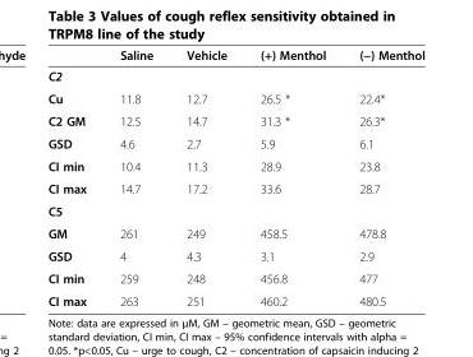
<table><thead><tr><td></td><td>Saline</td><td>Vehicle</td><td>(+) Menthol</td><td>(−) Menthol</td></tr></thead><tbody><tr><td colspan="5">C2</td></tr><tr><td>Cu</td><td>11.8</td><td>12.7</td><td>26.5 *</td><td>22.4*</td></tr><tr><td>C2 GM</td><td>12.5</td><td>14.7</td><td>31.3 *</td><td>26.3*</td></tr><tr><td>GSD</td><td>4.6</td><td>2.7</td><td>5.9</td><td>6.1</td></tr><tr><td>CI min</td><td>10.4</td><td>11.3</td><td>28.9</td><td>23.8</td></tr><tr><td>CI max</td><td>14.7</td><td>17.2</td><td>33.6</td><td>28.7</td></tr><tr><td colspan="5">C5</td></tr><tr><td>GM</td><td>261</td><td>249</td><td>458.5</td><td>478.8</td></tr><tr><td>GSD</td><td>4</td><td>4.3</td><td>3.1</td><td>2.9</td></tr><tr><td>CI min</td><td>259</td><td>248</td><td>456.8</td><td>477</td></tr><tr><td>CI max</td><td>263</td><td>251</td><td>460.2</td><td>480.5</td></tr></tbody></table>